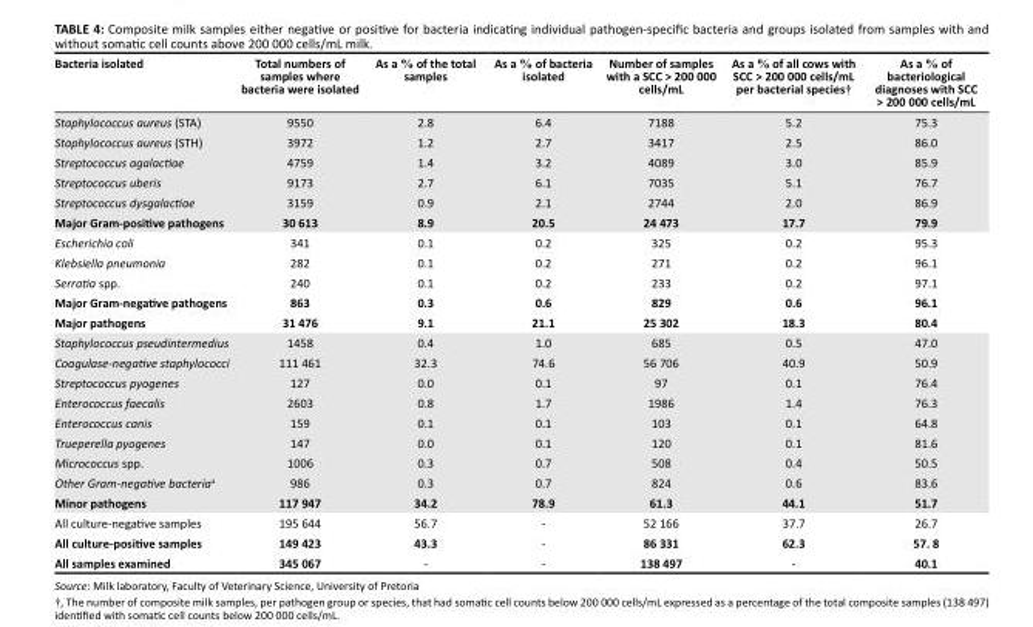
<table><thead><tr><td>Bacteria isolated</td><td>Total numbers of samples where bacteria were isolated</td><td>As a % of the total samples</td><td>As a % of bacteria isolated</td><td>Number of samples with a SCC &gt; 200 000 cells/mL</td><td>As a % of all cows with SCC &gt; 200 000 cells/mL per bacterial species†</td><td>As a % of bacteriological diagnoses with SCC &gt; 200 000 cells/mL</td></tr></thead><tbody><tr><td>Staphylococcus aureus (STA)</td><td>9550</td><td>2.8</td><td>6.4</td><td>7188</td><td>5.2</td><td>75.3</td></tr><tr><td>Staphylococcus aureus (STH)</td><td>3972</td><td>1.2</td><td>2.7</td><td>3417</td><td>2.5</td><td>86.0</td></tr><tr><td>Streptococcus agalactiae</td><td>4759</td><td>1.4</td><td>3.2</td><td>4089</td><td>3.0</td><td>85.9</td></tr><tr><td>Streptococcus uberis</td><td>9173</td><td>2.7</td><td>6.1</td><td>7035</td><td>5.1</td><td>76.7</td></tr><tr><td>Streptococcus dysgalactiae</td><td>3159</td><td>0.9</td><td>2.1</td><td>2744</td><td>2.0</td><td>86.9</td></tr><tr><td>Major Gram-positive pathogens</td><td>30 613</td><td>8.9</td><td>20.5</td><td>24 473</td><td>17.7</td><td>79.9</td></tr><tr><td>Escherichia coli</td><td>341</td><td>0.1</td><td>0.2</td><td>325</td><td>0.2</td><td>95.3</td></tr><tr><td>Klebsiella pneumonia</td><td>282</td><td>0.1</td><td>0.2</td><td>271</td><td>0.2</td><td>96.1</td></tr><tr><td>Serratia spp.</td><td>240</td><td>0.1</td><td>0.2</td><td>233</td><td>0.2</td><td>97.1</td></tr><tr><td>Major Gram-negative pathogens</td><td>863</td><td>0.3</td><td>0.6</td><td>829</td><td>0.6</td><td>96.1</td></tr><tr><td>Major pathogens</td><td>31 476</td><td>9.1</td><td>21.1</td><td>25 302</td><td>18.3</td><td>80.4</td></tr><tr><td>Staphylococcus pseudintermedius</td><td>1458</td><td>0.4</td><td>1.0</td><td>685</td><td>0.5</td><td>47.0</td></tr><tr><td>Coagulase-negative staphylococci</td><td>111 461</td><td>32.3</td><td>74.6</td><td>56 706</td><td>40.9</td><td>50.9</td></tr><tr><td>Streptococcus pyogenes</td><td>127</td><td>0.0</td><td>0.1</td><td>97</td><td>0.1</td><td>76.4</td></tr><tr><td>Enterococcus faecalis</td><td>2603</td><td>0.8</td><td>1.7</td><td>1986</td><td>1.4</td><td>76.3</td></tr><tr><td>Enterococcus canis</td><td>159</td><td>0.1</td><td>0.1</td><td>103</td><td>0.1</td><td>64.8</td></tr><tr><td>Trueperella pyogenes</td><td>147</td><td>0.0</td><td>0.1</td><td>120</td><td>0.1</td><td>81.6</td></tr><tr><td>Micrococcus spp.</td><td>1006</td><td>0.3</td><td>0.7</td><td>508</td><td>0.4</td><td>50.5</td></tr><tr><td>Other Gram-negative bacteria<sup>a</sup></td><td>986</td><td>0.3</td><td>0.7</td><td>824</td><td>0.6</td><td>83.6</td></tr><tr><td>Minor pathogens</td><td>117 947</td><td>34.2</td><td>78.9</td><td>61.3</td><td>44.1</td><td>51.7</td></tr><tr><td>All culture-negative samples</td><td>195 644</td><td>56.7</td><td>-</td><td>52 166</td><td>37.7</td><td>26.7</td></tr><tr><td>All culture-positive samples</td><td>149 423</td><td>43.3</td><td>-</td><td>86 331</td><td>62.3</td><td>57. 8</td></tr><tr><td>All samples examined</td><td>345 067</td><td>-</td><td>-</td><td>138 497</td><td>-</td><td>40.1</td></tr></tbody></table>